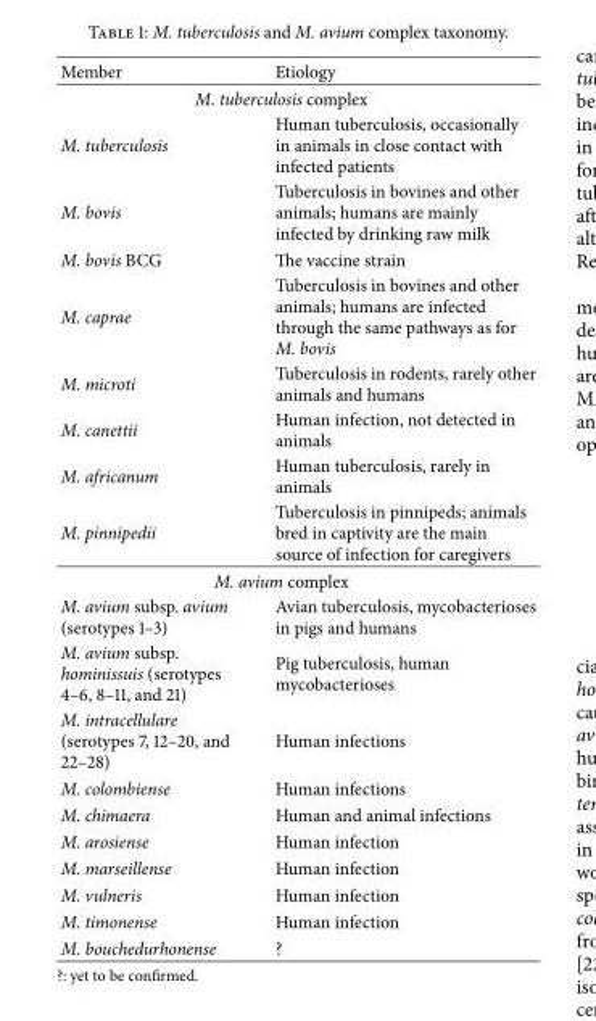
<table><thead><tr><td>Member</td><td>Etiology</td></tr></thead><tbody><tr><td colspan="2">M. tuberculosis complex</td></tr><tr><td>M. tuberculosis</td><td>Human tuberculosis, occasionally in animals in close contact with infected patients</td></tr><tr><td>M. bovis</td><td>Tuberculosis in bovines and other animals; humans are mainly infected by drinking raw milk</td></tr><tr><td>M. bovis BCG</td><td>The vaccine strain</td></tr><tr><td>M. caprae</td><td>Tuberculosis in bovines and other animals; humans are infected through the same pathways as for M. bovis</td></tr><tr><td>M. microti</td><td>Tuberculosis in rodents, rarely other animals and humans</td></tr><tr><td>M. canettii</td><td>Human infection, not detected in animals</td></tr><tr><td>M. africanum</td><td>Human tuberculosis, rarely in animals</td></tr><tr><td>M. pinnipedii</td><td>Tuberculosis in pinnipeds; animals bred in captivity are the main source of infection for caregivers</td></tr><tr><td colspan="2">M. avium complex</td></tr><tr><td>M. avium subsp. avium (serotypes 1–3)</td><td>Avian tuberculosis, mycobacterioses in pigs and humans</td></tr><tr><td>M. avium subsp. hominissuis (serotypes 4–6, 8–11, and 21)</td><td>Pig tuberculosis, human mycobacterioses</td></tr><tr><td>M. intracellulare (serotypes 7, 12–20, and 22–28)</td><td>Human infections</td></tr><tr><td>M. colombiense</td><td>Human infections</td></tr><tr><td>M. chimaera</td><td>Human and animal infections</td></tr><tr><td>M. arosiense</td><td>Human infection</td></tr><tr><td>M. marseillense</td><td>Human infection</td></tr><tr><td>M. vulneris</td><td>Human infection</td></tr><tr><td>M. timonense</td><td>Human infection</td></tr><tr><td>M. bouchedurhonense</td><td>?</td></tr></tbody></table>